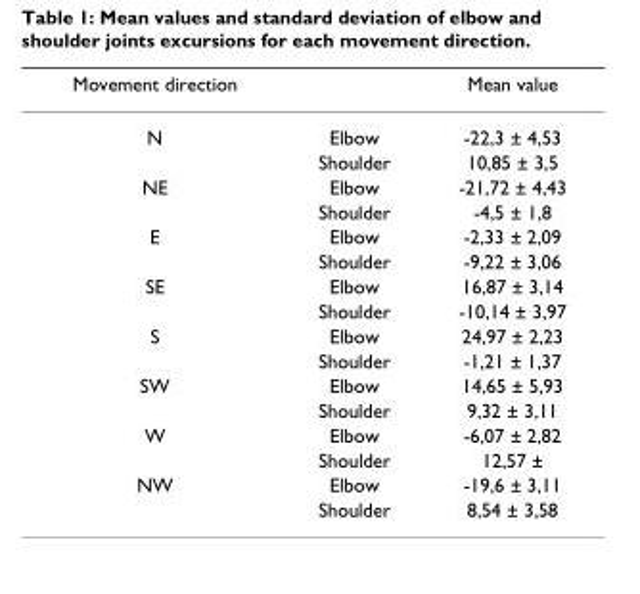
<table><thead><tr><td>Movement direction</td><td></td><td>Mean value</td></tr></thead><tbody><tr><td rowspan="2">N</td><td>Elbow</td><td>-22,3 ± 4,53</td></tr><tr><td>Shoulder</td><td>10,85 ± 3,5</td></tr><tr><td rowspan="2">NE</td><td>Elbow</td><td>-21,72 ± 4,43</td></tr><tr><td>Shoulder</td><td>-4,5 ± 1,8</td></tr><tr><td rowspan="2">E</td><td>Elbow</td><td>-2,33 ± 2,09</td></tr><tr><td>Shoulder</td><td>-9,22 ± 3,06</td></tr><tr><td rowspan="2">SE</td><td>Elbow</td><td>16,87 ± 3,14</td></tr><tr><td>Shoulder</td><td>-10,14 ± 3,97</td></tr><tr><td rowspan="2">S</td><td>Elbow</td><td>24,97 ± 2,23</td></tr><tr><td>Shoulder</td><td>-1,21 ± 1,37</td></tr><tr><td rowspan="2">SW</td><td>Elbow</td><td>14,65 ± 5,93</td></tr><tr><td>Shoulder</td><td>9,32 ± 3,11</td></tr><tr><td rowspan="2">W</td><td>Elbow</td><td>-6,07 ± 2,82</td></tr><tr><td>Shoulder</td><td>12,57 ±</td></tr><tr><td rowspan="2">NW</td><td>Elbow</td><td>-19,6 ± 3,11</td></tr><tr><td>Shoulder</td><td>8,54 ± 3,58</td></tr></tbody></table>